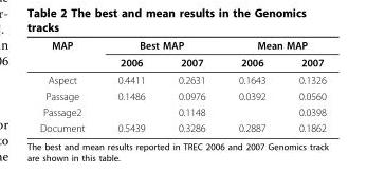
<table><thead><tr><td rowspan="2">MAP</td><td colspan="2">Best MAP</td><td colspan="2">Mean MAP</td></tr><tr><td>2006</td><td>2007</td><td>2006</td><td>2007</td></tr></thead><tbody><tr><td>Aspect</td><td>0.4411</td><td>0.2631</td><td>0.1643</td><td>0.1326</td></tr><tr><td>Passage</td><td>0.1486</td><td>0.0976</td><td>0.0392</td><td>0.0560</td></tr><tr><td>Passage2</td><td></td><td>0.1148</td><td></td><td>0.0398</td></tr><tr><td>Document</td><td>0.5439</td><td>0.3286</td><td>0.2887</td><td>0.1862</td></tr></tbody></table>